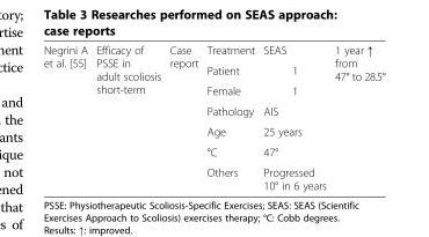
<table><tbody><tr><td rowspan="7">Negrini A et al. [55]</td><td rowspan="7">Efficacy of PSSE in adult scoliosis short-term</td><td rowspan="7">Case report</td><td>Treatment</td><td>SEAS</td><td rowspan="7">1 year ↑ from 47° to 28.5°</td></tr><tr><td>Patient</td><td>1</td></tr><tr><td>Female</td><td>1</td></tr><tr><td>Pathology</td><td>AIS</td></tr><tr><td>Age</td><td>25 years</td></tr><tr><td>°C</td><td>47°</td></tr><tr><td>Others</td><td>Progressed 10° in 6 years</td></tr></tbody></table>